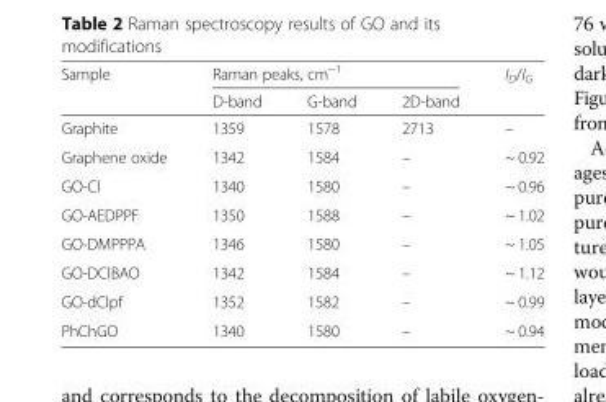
<table><thead><tr><td rowspan="2">Sample</td><td colspan="3">Raman peaks, cm<sup>−1</sup></td><td rowspan="2">I<sub>D</sub>/I<sub>G</sub></td></tr><tr><td>D-band</td><td>G-band</td><td>2D-band</td></tr></thead><tbody><tr><td>Graphite</td><td>1359</td><td>1578</td><td>2713</td><td>–</td></tr><tr><td>Graphene oxide</td><td>1342</td><td>1584</td><td>–</td><td>~ 0.92</td></tr><tr><td>GO-Cl</td><td>1340</td><td>1580</td><td>–</td><td>~ 0.96</td></tr><tr><td>GO-AEDPPF</td><td>1350</td><td>1588</td><td>–</td><td>~ 1.02</td></tr><tr><td>GO-DMPPPA</td><td>1346</td><td>1580</td><td>–</td><td>~ 1.05</td></tr><tr><td>GO-DClBAO</td><td>1342</td><td>1584</td><td>–</td><td>~ 1.12</td></tr><tr><td>GO-dClpf</td><td>1352</td><td>1582</td><td>–</td><td>~ 0.99</td></tr><tr><td>PhChGO</td><td>1340</td><td>1580</td><td>–</td><td>~ 0.94</td></tr></tbody></table>